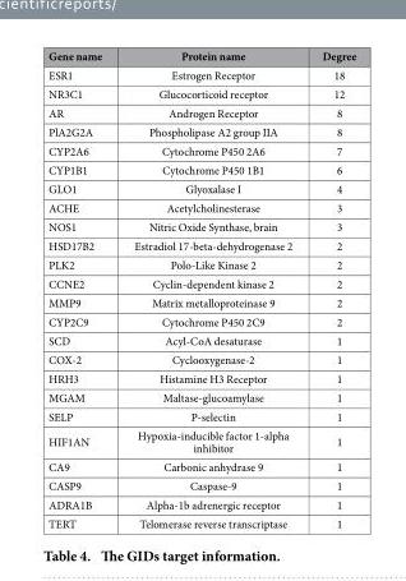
<table><thead><tr><td>Gene name</td><td>Protein name</td><td>Degree</td></tr></thead><tbody><tr><td>ESR1</td><td>Estrogen Receptor</td><td>18</td></tr><tr><td>NR3C1</td><td>Glucocorticoid receptor</td><td>12</td></tr><tr><td>AR</td><td>Androgen Receptor</td><td>8</td></tr><tr><td>PlA2G2A</td><td>Phospholipase A2 group IIA</td><td>8</td></tr><tr><td>CYP2A6</td><td>Cytochrome P450 2A6</td><td>7</td></tr><tr><td>CYP1B1</td><td>Cytochrome P450 1B1</td><td>6</td></tr><tr><td>GLO1</td><td>Glyoxalase I</td><td>4</td></tr><tr><td>ACHE</td><td>Acetylcholinesterase</td><td>3</td></tr><tr><td>NOS1</td><td>Nitric Oxide Synthase, brain</td><td>3</td></tr><tr><td>HSD17B2</td><td>Estradiol 17-beta-dehydrogenase 2</td><td>2</td></tr><tr><td>PLK2</td><td>Polo-Like Kinase 2</td><td>2</td></tr><tr><td>CCNE2</td><td>Cyclin-dependent kinase 2</td><td>2</td></tr><tr><td>MMP9</td><td>Matrix metalloproteinase 9</td><td>2</td></tr><tr><td>CYP2C9</td><td>Cytochrome P450 2C9</td><td>2</td></tr><tr><td>SCD</td><td>Acyl-CoA desaturase</td><td>1</td></tr><tr><td>COX-2</td><td>Cyclooxygenase-2</td><td>1</td></tr><tr><td>HRH3</td><td>Histamine H3 Receptor</td><td>1</td></tr><tr><td>MGAM</td><td>Maltase-glucoamylase</td><td>1</td></tr><tr><td>SELP</td><td>P-selectin</td><td>1</td></tr><tr><td>HIF1AN</td><td>Hypoxia-inducible factor 1-alpha inhibitor</td><td>1</td></tr><tr><td>CA9</td><td>Carbonic anhydrase 9</td><td>1</td></tr><tr><td>CASP9</td><td>Caspase-9</td><td>1</td></tr><tr><td>ADRA1B</td><td>Alpha-1b adrenergic receptor</td><td>1</td></tr><tr><td>TERT</td><td>Telomerase reverse transcriptase</td><td>1</td></tr></tbody></table>